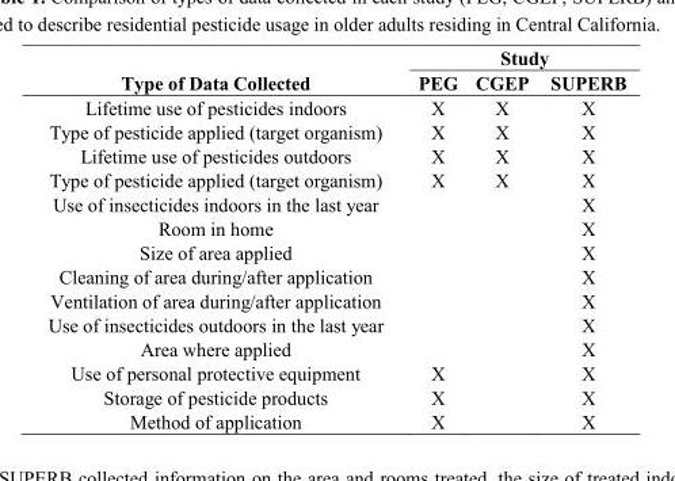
<table><thead><tr><td rowspan="2">Type of Data Collected</td><td colspan="3">Study</td></tr><tr><td>PEG</td><td>CGEP</td><td>SUPERB</td></tr></thead><tbody><tr><td>Lifetime use of pesticides indoors</td><td>X</td><td>X</td><td>X</td></tr><tr><td>Type of pesticide applied (target organism)</td><td>X</td><td>X</td><td>X</td></tr><tr><td>Lifetime use of pesticides outdoors</td><td>X</td><td>X</td><td>X</td></tr><tr><td>Type of pesticide applied (target organism)</td><td>X</td><td>X</td><td>X</td></tr><tr><td>Use of insecticides indoors in the last year</td><td></td><td></td><td>X</td></tr><tr><td>Room in home</td><td></td><td></td><td>X</td></tr><tr><td>Size of area applied</td><td></td><td></td><td>X</td></tr><tr><td>Cleaning of area during/after application</td><td></td><td></td><td>X</td></tr><tr><td>Ventilation of area during/after application</td><td></td><td></td><td>X</td></tr><tr><td>Use of insecticides outdoors in the last year</td><td></td><td></td><td>X</td></tr><tr><td>Area where applied</td><td></td><td></td><td>X</td></tr><tr><td>Use of personal protective equipment</td><td>X</td><td></td><td>X</td></tr><tr><td>Storage of pesticide products</td><td>X</td><td></td><td>X</td></tr><tr><td>Method of application</td><td>X</td><td></td><td>X</td></tr></tbody></table>